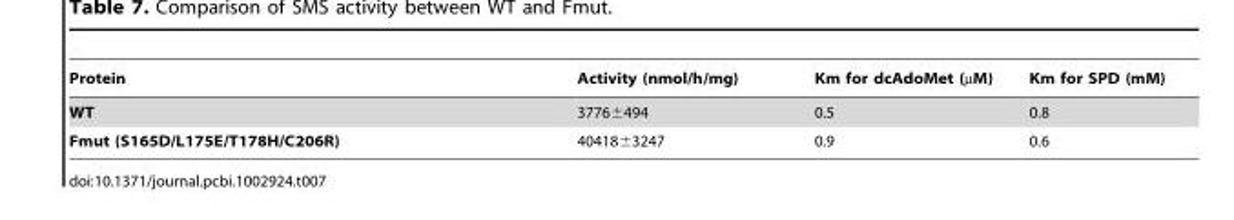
<table><thead><tr><td>Protein</td><td>Activity (nmol/h/mg)</td><td>Km for dcAdoMet (µM)</td><td>Km for SPD (mM)</td></tr></thead><tbody><tr><td>WT</td><td>3776±494</td><td>0.5</td><td>0.8</td></tr><tr><td>Fmut (S165D/L175E/T178H/C206R)</td><td>40418±3247</td><td>0.9</td><td>0.6</td></tr></tbody></table>